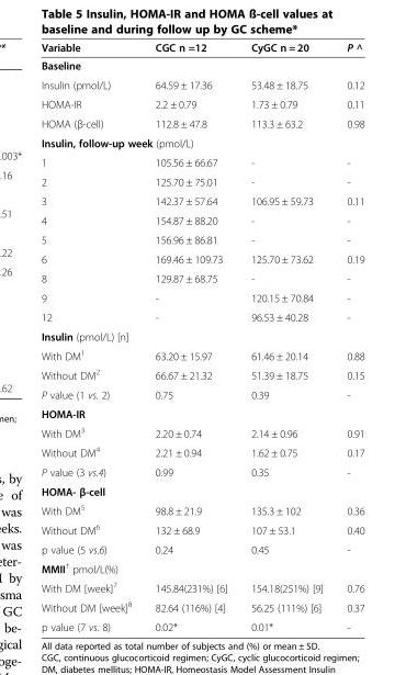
<table><thead><tr><td>Variable</td><td>CGC n =12</td><td>CyGC n = 20</td><td>P ^</td></tr></thead><tbody><tr><td colspan="4">Baseline</td></tr><tr><td>Insulin (pmol/L)</td><td>64.59 ± 17.36</td><td>53.48 ± 18.75</td><td>0.12</td></tr><tr><td>HOMA-IR</td><td>2.2 ± 0.79</td><td>1.73 ± 0.79</td><td>0.11</td></tr><tr><td>HOMA (β-cell)</td><td>112.8 ± 47.8</td><td>113.3 ± 63.2</td><td>0.98</td></tr><tr><td colspan="4">Insulin, follow-up week (pmol/L)</td></tr><tr><td>1</td><td>105.56 ± 66.67</td><td>-</td><td>-</td></tr><tr><td>2</td><td>125.70 ± 75.01</td><td>-</td><td>-</td></tr><tr><td>3</td><td>142.37 ± 57.64</td><td>106.95 ± 59.73</td><td>0.11</td></tr><tr><td>4</td><td>154.87 ± 88.20</td><td>-</td><td>-</td></tr><tr><td>5</td><td>156.96 ± 86.81</td><td>-</td><td>-</td></tr><tr><td>6</td><td>169.46 ± 109.73</td><td>125.70 ± 73.62</td><td>0.19</td></tr><tr><td>8</td><td>129.87 ± 68.75</td><td>-</td><td>-</td></tr><tr><td>9</td><td>-</td><td>120.15 ± 70.84</td><td>-</td></tr><tr><td>12</td><td>-</td><td>96.53 ± 40.28</td><td>-</td></tr><tr><td colspan="4">Insulin (pmol/L) [n]</td></tr><tr><td>With DM<sup>1</sup></td><td>63.20 ± 15.97</td><td>61.46 ± 20.14</td><td>0.88</td></tr><tr><td>Without DM<sup>2</sup></td><td>66.67 ± 21.32</td><td>51.39 ± 18.75</td><td>0.15</td></tr><tr><td>P value (1 vs. 2)</td><td>0.75</td><td>0.39</td><td>-</td></tr><tr><td colspan="4">HOMA-IR</td></tr><tr><td>With DM<sup>3</sup></td><td>2.20 ± 0.74</td><td>2.14 ± 0.96</td><td>0.91</td></tr><tr><td>Without DM<sup>4</sup></td><td>2.21 ± 0.94</td><td>1.62 ± 0.75</td><td>0.17</td></tr><tr><td>P value (3 vs.4)</td><td>0.99</td><td>0.35</td><td>-</td></tr><tr><td colspan="4">HOMA- β-cell</td></tr><tr><td>With DM<sup>5</sup></td><td>98.8 ± 21.9</td><td>135.3 ± 102</td><td>0.36</td></tr><tr><td>Without DM<sup>6</sup></td><td>132 ± 68.9</td><td>107 ± 53.1</td><td>0.40</td></tr><tr><td>p value (5 vs.6)</td><td>0.24</td><td>0.45</td><td>-</td></tr><tr><td colspan="4">MMII<sup>†</sup> pmol/L(%)</td></tr><tr><td>With DM [week]<sup>7</sup></td><td>145.84(231%) [6]</td><td>154.18(251%) [9]</td><td>0.76</td></tr><tr><td>Without DM [week]<sup>8</sup></td><td>82.64 (116%) [4]</td><td>56.25 (111%) [6]</td><td>0.37</td></tr><tr><td>p value (7 vs. 8)</td><td>0.02*</td><td>0.01*</td><td>-</td></tr></tbody></table>